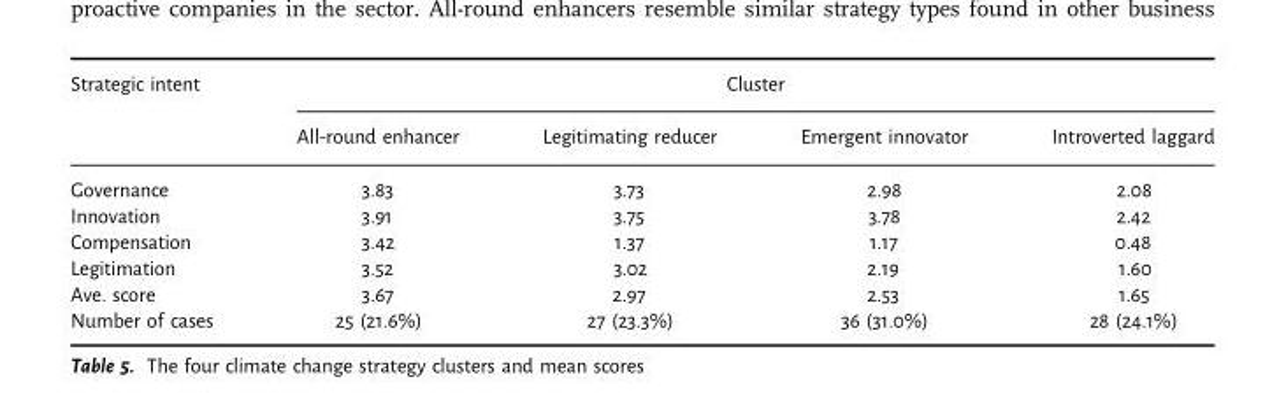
<table><thead><tr><td rowspan="2">Strategic intent</td><td colspan="4">Cluster</td></tr><tr><td>All-round enhancer</td><td>Legitimating reducer</td><td>Emergent innovator</td><td>Introverted laggard</td></tr></thead><tbody><tr><td>Governance</td><td>3.83</td><td>3.73</td><td>2.98</td><td>2.08</td></tr><tr><td>Innovation</td><td>3.91</td><td>3.75</td><td>3.78</td><td>2.42</td></tr><tr><td>Compensation</td><td>3.42</td><td>1.37</td><td>1.17</td><td>0.48</td></tr><tr><td>Legitimation</td><td>3.52</td><td>3.02</td><td>2.19</td><td>1.60</td></tr><tr><td>Ave. score</td><td>3.67</td><td>2.97</td><td>2.53</td><td>1.65</td></tr><tr><td>Number of cases</td><td>25 (21.6%)</td><td>27 (23.3%)</td><td>36 (31.0%)</td><td>28 (24.1%)</td></tr></tbody></table>